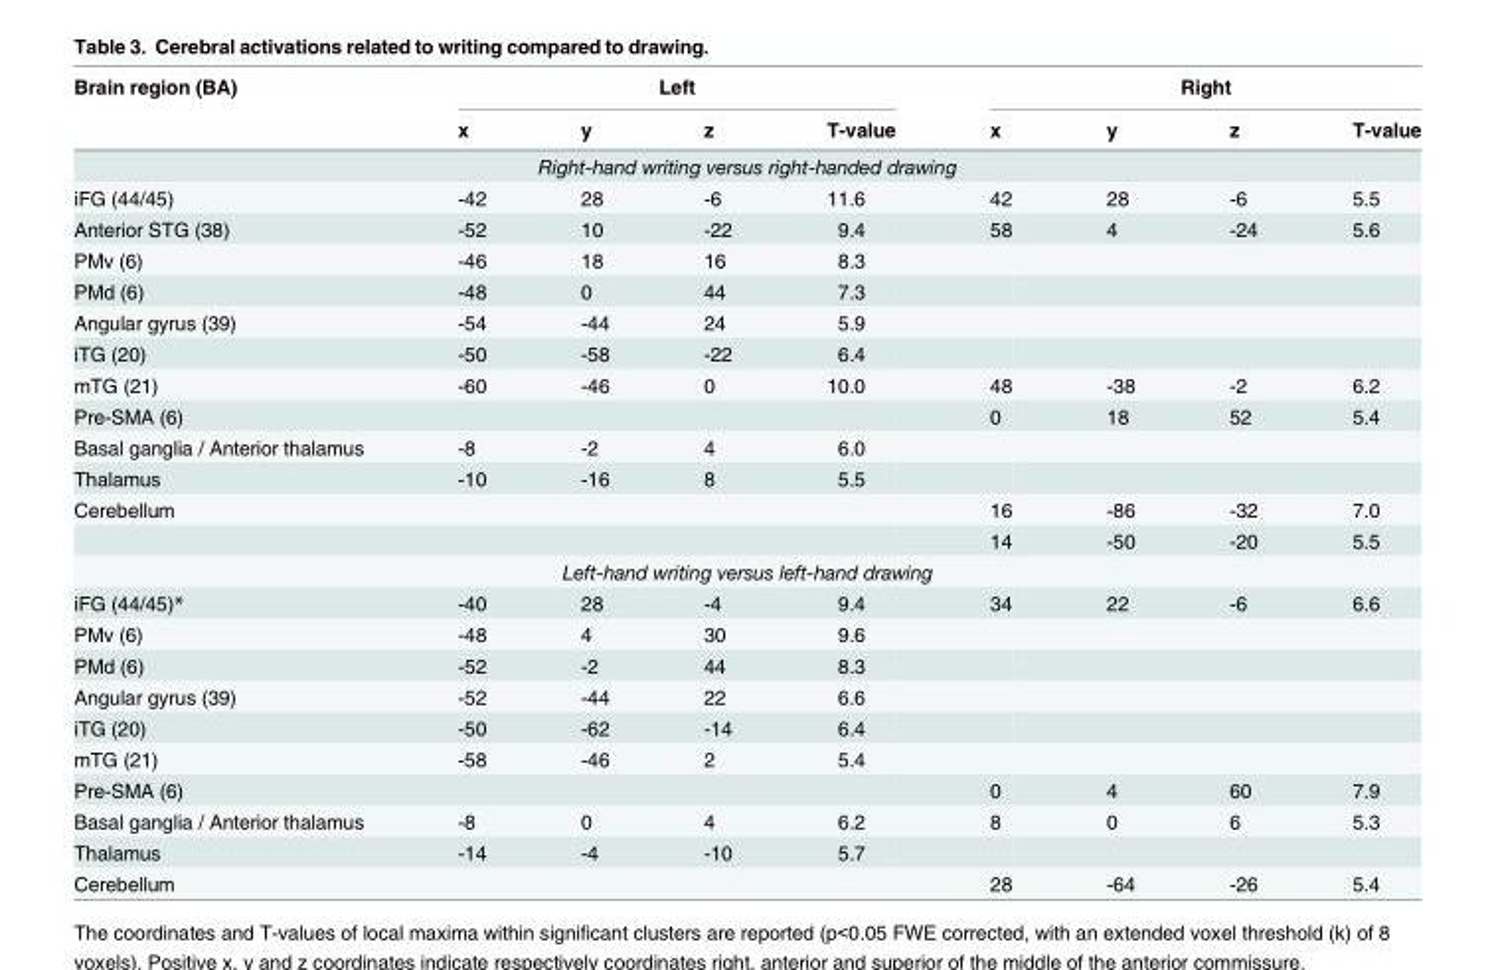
<table><thead><tr><td rowspan="2">Brain region (BA)</td><td colspan="4">Left</td><td colspan="4">Right</td></tr><tr><td>x</td><td>y</td><td>z</td><td>T-value</td><td>x</td><td>y</td><td>z</td><td>T-value</td></tr></thead><tbody><tr><td colspan="9">Right-hand writing versus right-handed drawing</td></tr><tr><td>iFG (44/45)</td><td>-42</td><td>28</td><td>-6</td><td>11.6</td><td>42</td><td>28</td><td>-6</td><td>5.5</td></tr><tr><td>Anterior STG (38)</td><td>-52</td><td>10</td><td>-22</td><td>9.4</td><td>58</td><td>4</td><td>-24</td><td>5.6</td></tr><tr><td>PMv (6)</td><td>-46</td><td>18</td><td>16</td><td>8.3</td><td></td><td></td><td></td><td></td></tr><tr><td>PMd (6)</td><td>-48</td><td>0</td><td>44</td><td>7.3</td><td></td><td></td><td></td><td></td></tr><tr><td>Angular gyrus (39)</td><td>-54</td><td>-44</td><td>24</td><td>5.9</td><td></td><td></td><td></td><td></td></tr><tr><td>iTG (20)</td><td>-50</td><td>-58</td><td>-22</td><td>6.4</td><td></td><td></td><td></td><td></td></tr><tr><td>mTG (21)</td><td>-60</td><td>-46</td><td>0</td><td>10.0</td><td>48</td><td>-38</td><td>-2</td><td>6.2</td></tr><tr><td>Pre-SMA (6)</td><td></td><td></td><td></td><td></td><td>0</td><td>18</td><td>52</td><td>5.4</td></tr><tr><td>Basal ganglia / Anterior thalamus</td><td>-8</td><td>-2</td><td>4</td><td>6.0</td><td></td><td></td><td></td><td></td></tr><tr><td>Thalamus</td><td>-10</td><td>-16</td><td>8</td><td>5.5</td><td></td><td></td><td></td><td></td></tr><tr><td rowspan="2">Cerebellum</td><td></td><td></td><td></td><td></td><td>16</td><td>-86</td><td>-32</td><td>7.0</td></tr><tr><td></td><td></td><td></td><td></td><td>14</td><td>-50</td><td>-20</td><td>5.5</td></tr><tr><td colspan="9">Left-hand writing versus left-hand drawing</td></tr><tr><td>iFG (44/45)*</td><td>-40</td><td>28</td><td>-4</td><td>9.4</td><td>34</td><td>22</td><td>-6</td><td>6.6</td></tr><tr><td>PMv (6)</td><td>-48</td><td>4</td><td>30</td><td>9.6</td><td></td><td></td><td></td><td></td></tr><tr><td>PMd (6)</td><td>-52</td><td>-2</td><td>44</td><td>8.3</td><td></td><td></td><td></td><td></td></tr><tr><td>Angular gyrus (39)</td><td>-52</td><td>-44</td><td>22</td><td>6.6</td><td></td><td></td><td></td><td></td></tr><tr><td>iTG (20)</td><td>-50</td><td>-62</td><td>-14</td><td>6.4</td><td></td><td></td><td></td><td></td></tr><tr><td>mTG (21)</td><td>-58</td><td>-46</td><td>2</td><td>5.4</td><td></td><td></td><td></td><td></td></tr><tr><td>Pre-SMA (6)</td><td></td><td></td><td></td><td></td><td>0</td><td>4</td><td>60</td><td>7.9</td></tr><tr><td>Basal ganglia / Anterior thalamus</td><td>-8</td><td>0</td><td>4</td><td>6.2</td><td>8</td><td>0</td><td>6</td><td>5.3</td></tr><tr><td>Thalamus</td><td>-14</td><td>-4</td><td>-10</td><td>5.7</td><td></td><td></td><td></td><td></td></tr><tr><td>Cerebellum</td><td></td><td></td><td></td><td></td><td>28</td><td>-64</td><td>-26</td><td>5.4</td></tr></tbody></table>